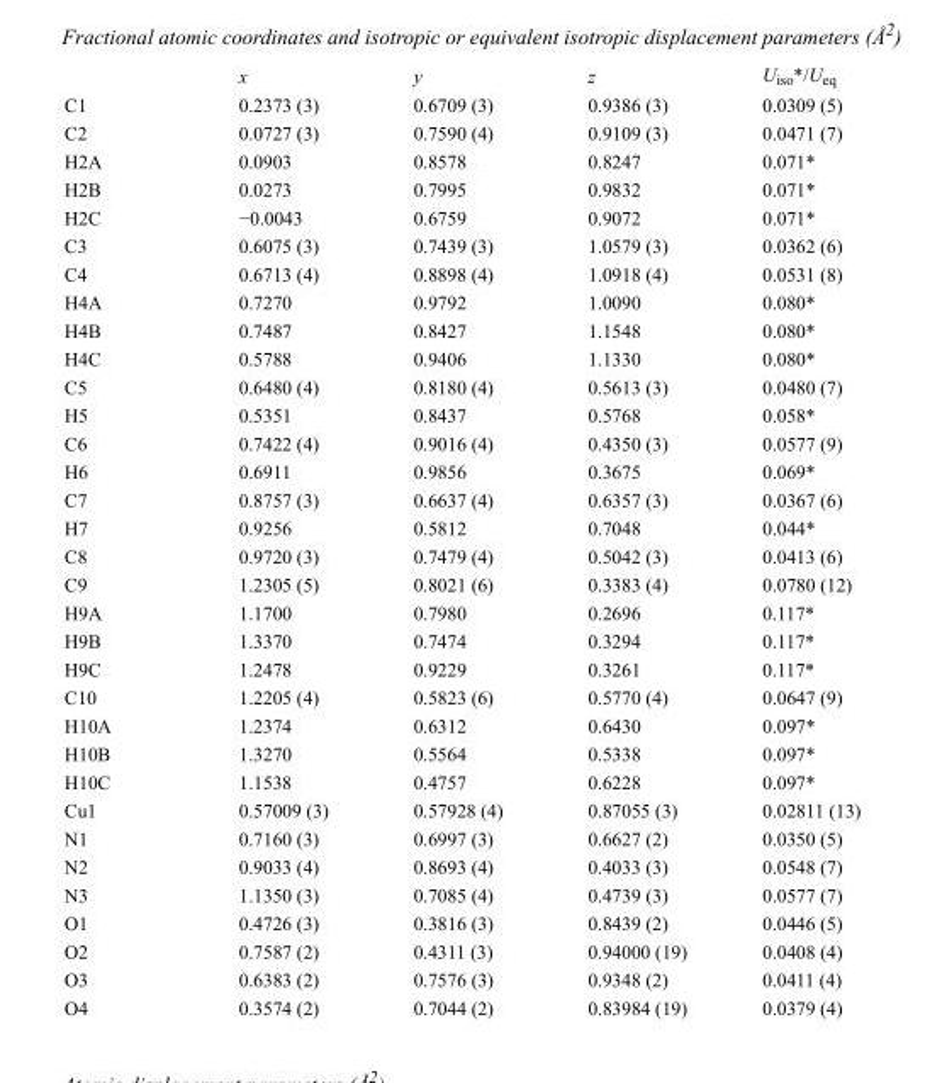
<table><thead><tr><td></td><td>x</td><td>y</td><td>z</td><td>U<sub>iso</sub>*/U<sub>eq</sub></td></tr></thead><tbody><tr><td>C1</td><td>0.2373 (3)</td><td>0.6709 (3)</td><td>0.9386 (3)</td><td>0.0309 (5)</td></tr><tr><td>C2</td><td>0.0727 (3)</td><td>0.7590 (4)</td><td>0.9109 (3)</td><td>0.0471 (7)</td></tr><tr><td>H2A</td><td>0.0903</td><td>0.8578</td><td>0.8247</td><td>0.071*</td></tr><tr><td>H2B</td><td>0.0273</td><td>0.7995</td><td>0.9832</td><td>0.071*</td></tr><tr><td>H2C</td><td>−0.0043</td><td>0.6759</td><td>0.9072</td><td>0.071*</td></tr><tr><td>C3</td><td>0.6075 (3)</td><td>0.7439 (3)</td><td>1.0579 (3)</td><td>0.0362 (6)</td></tr><tr><td>C4</td><td>0.6713 (4)</td><td>0.8898 (4)</td><td>1.0918 (4)</td><td>0.0531 (8)</td></tr><tr><td>H4A</td><td>0.7270</td><td>0.9792</td><td>1.0090</td><td>0.080*</td></tr><tr><td>H4B</td><td>0.7487</td><td>0.8427</td><td>1.1548</td><td>0.080*</td></tr><tr><td>H4C</td><td>0.5788</td><td>0.9406</td><td>1.1330</td><td>0.080*</td></tr><tr><td>C5</td><td>0.6480 (4)</td><td>0.8180 (4)</td><td>0.5613 (3)</td><td>0.0480 (7)</td></tr><tr><td>H5</td><td>0.5351</td><td>0.8437</td><td>0.5768</td><td>0.058*</td></tr><tr><td>C6</td><td>0.7422 (4)</td><td>0.9016 (4)</td><td>0.4350 (3)</td><td>0.0577 (9)</td></tr><tr><td>H6</td><td>0.6911</td><td>0.9856</td><td>0.3675</td><td>0.069*</td></tr><tr><td>C7</td><td>0.8757 (3)</td><td>0.6637 (4)</td><td>0.6357 (3)</td><td>0.0367 (6)</td></tr><tr><td>H7</td><td>0.9256</td><td>0.5812</td><td>0.7048</td><td>0.044*</td></tr><tr><td>C8</td><td>0.9720 (3)</td><td>0.7479 (4)</td><td>0.5042 (3)</td><td>0.0413 (6)</td></tr><tr><td>C9</td><td>1.2305 (5)</td><td>0.8021 (6)</td><td>0.3383 (4)</td><td>0.0780 (12)</td></tr><tr><td>H9A</td><td>1.1700</td><td>0.7980</td><td>0.2696</td><td>0.117*</td></tr><tr><td>H9B</td><td>1.3370</td><td>0.7474</td><td>0.3294</td><td>0.117*</td></tr><tr><td>H9C</td><td>1.2478</td><td>0.9229</td><td>0.3261</td><td>0.117*</td></tr><tr><td>C10</td><td>1.2205 (4)</td><td>0.5823 (6)</td><td>0.5770 (4)</td><td>0.0647 (9)</td></tr><tr><td>H10A</td><td>1.2374</td><td>0.6312</td><td>0.6430</td><td>0.097*</td></tr><tr><td>H10B</td><td>1.3270</td><td>0.5564</td><td>0.5338</td><td>0.097*</td></tr><tr><td>H10C</td><td>1.1538</td><td>0.4757</td><td>0.6228</td><td>0.097*</td></tr><tr><td>Cu1</td><td>0.57009 (3)</td><td>0.57928 (4)</td><td>0.87055 (3)</td><td>0.02811 (13)</td></tr><tr><td>N1</td><td>0.7160 (3)</td><td>0.6997 (3)</td><td>0.6627 (2)</td><td>0.0350 (5)</td></tr><tr><td>N2</td><td>0.9033 (4)</td><td>0.8693 (4)</td><td>0.4033 (3)</td><td>0.0548 (7)</td></tr><tr><td>N3</td><td>1.1350 (3)</td><td>0.7085 (4)</td><td>0.4739 (3)</td><td>0.0577 (7)</td></tr><tr><td>O1</td><td>0.4726 (3)</td><td>0.3816 (3)</td><td>0.8439 (2)</td><td>0.0446 (5)</td></tr><tr><td>O2</td><td>0.7587 (2)</td><td>0.4311 (3)</td><td>0.94000 (19)</td><td>0.0408 (4)</td></tr><tr><td>O3</td><td>0.6383 (2)</td><td>0.7576 (3)</td><td>0.9348 (2)</td><td>0.0411 (4)</td></tr><tr><td>O4</td><td>0.3574 (2)</td><td>0.7044 (2)</td><td>0.83984 (19)</td><td>0.0379 (4)</td></tr></tbody></table>